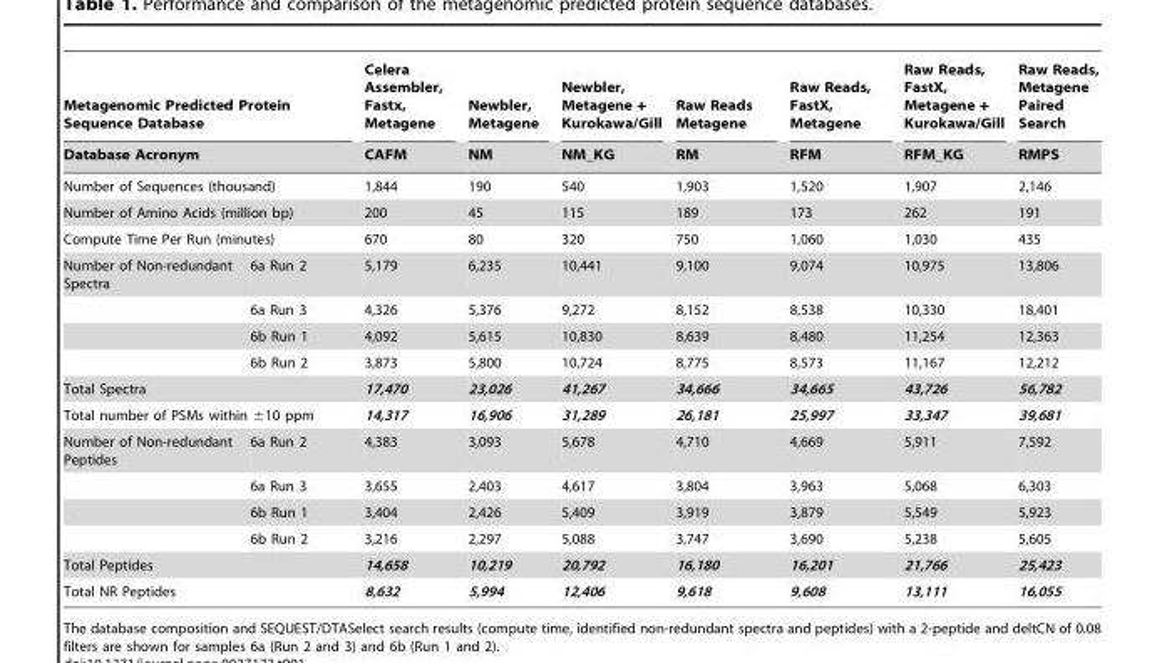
<table><thead><tr><td rowspan="2" colspan="2">Metagenomic Predicted Protein Sequence Database Database Acronym</td><td rowspan="2">Celera Assembler, Fastx, Metagene CAFM</td><td rowspan="2">Newbler, Metagene NM</td><td rowspan="2">Newbler, Metagene + Kurokawa/Gill NM_KG</td><td rowspan="2">Raw Reads Metagene RM</td><td rowspan="2">Raw Reads, FastX, Metagene RFM</td><td rowspan="2">Raw Reads, FastX, Metagene + Kurokawa/Gill RFM_KG</td><td rowspan="2">Raw Reads, Metagene Paired Search RMPS</td></tr><tr></tr></thead><tbody><tr><td colspan="2">Number of Sequences (thousand)</td><td>1,844</td><td>190</td><td>540</td><td>1,903</td><td>1,520</td><td>1,907</td><td>2,146</td></tr><tr><td colspan="2">Number of Amino Acids (million bp)</td><td>200</td><td>45</td><td>115</td><td>189</td><td>173</td><td>262</td><td>191</td></tr><tr><td colspan="2">Compute Time Per Run (minutes)</td><td>670</td><td>80</td><td>320</td><td>750</td><td>1,060</td><td>1,030</td><td>435</td></tr><tr><td rowspan="4">Number of Non-redundant Spectra</td><td>6a Run 2</td><td>5,179</td><td>6,235</td><td>10,441</td><td>9,100</td><td>9,074</td><td>10,975</td><td>13,806</td></tr><tr><td>6a Run 3</td><td>4,326</td><td>5,376</td><td>9,272</td><td>8,152</td><td>8,538</td><td>10,330</td><td>18,401</td></tr><tr><td>6b Run 1</td><td>4,092</td><td>5,615</td><td>10,830</td><td>8,639</td><td>8,480</td><td>11,254</td><td>12,363</td></tr><tr><td>6b Run 2</td><td>3,873</td><td>5,800</td><td>10,724</td><td>8,775</td><td>8,573</td><td>11,167</td><td>12,212</td></tr><tr><td colspan="2">Total Spectra</td><td>17,470</td><td>23,026</td><td>41,267</td><td>34,666</td><td>34,665</td><td>43,726</td><td>56,782</td></tr><tr><td colspan="2">Total number of PSMs within ±10 ppm</td><td>14,317</td><td>16,906</td><td>31,289</td><td>26,181</td><td>25,997</td><td>33,347</td><td>39,681</td></tr><tr><td rowspan="4">Number of Non-redundant Peptides</td><td>6a Run 2</td><td>4,383</td><td>3,093</td><td>5,678</td><td>4,710</td><td>4,669</td><td>5,911</td><td>7,592</td></tr><tr><td>6a Run 3</td><td>3,655</td><td>2,403</td><td>4,617</td><td>3,804</td><td>3,963</td><td>5,068</td><td>6,303</td></tr><tr><td>6b Run 1</td><td>3,404</td><td>2,426</td><td>5,409</td><td>3,919</td><td>3,879</td><td>5,549</td><td>5,923</td></tr><tr><td>6b Run 2</td><td>3,216</td><td>2,297</td><td>5,088</td><td>3,747</td><td>3,690</td><td>5,238</td><td>5,605</td></tr><tr><td colspan="2">Total Peptides</td><td>14,658</td><td>10,219</td><td>20,792</td><td>16,180</td><td>16,201</td><td>21,766</td><td>25,423</td></tr><tr><td colspan="2">Total NR Peptides</td><td>8,632</td><td>5,994</td><td>12,406</td><td>9,618</td><td>9,608</td><td>13,111</td><td>16,055</td></tr></tbody></table>